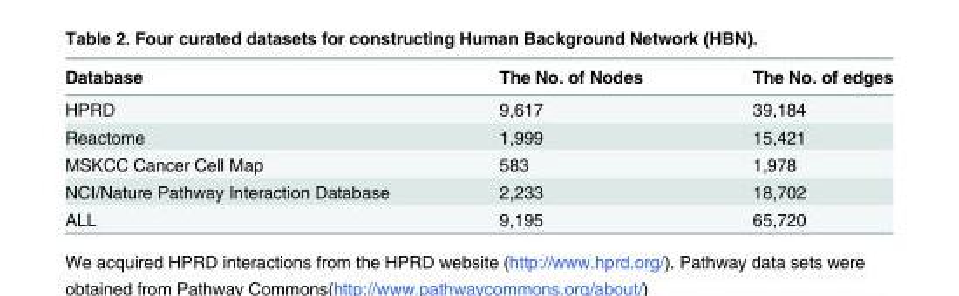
<table><thead><tr><td>Database</td><td>The No. of Nodes</td><td>The No. of edges</td></tr></thead><tbody><tr><td>HPRD</td><td>9,617</td><td>39,184</td></tr><tr><td>Reactome</td><td>1,999</td><td>15,421</td></tr><tr><td>MSKCC Cancer Cell Map</td><td>583</td><td>1,978</td></tr><tr><td>NCI/Nature Pathway Interaction Database</td><td>2,233</td><td>18,702</td></tr><tr><td>ALL</td><td>9,195</td><td>65,720</td></tr></tbody></table>